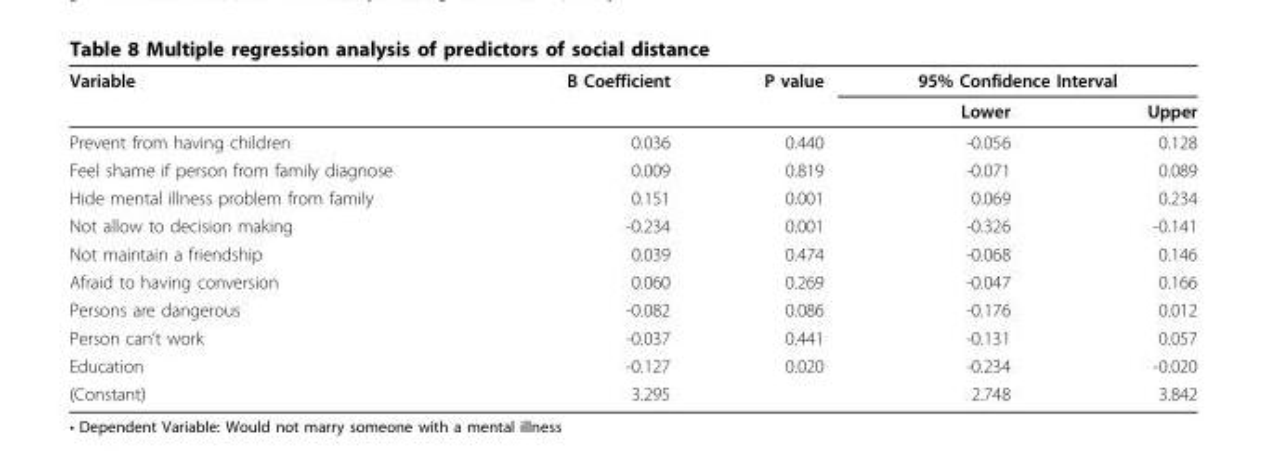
<table><thead><tr><td rowspan="2">Variable</td><td rowspan="2">B Coefficient</td><td rowspan="2">P value</td><td colspan="2">95% Confidence Interval</td></tr><tr><td>Lower</td><td>Upper</td></tr></thead><tbody><tr><td>Prevent from having children</td><td>0.036</td><td>0.440</td><td>-0.056</td><td>0.128</td></tr><tr><td>Feel shame if person from family diagnose</td><td>0.009</td><td>0.819</td><td>-0.071</td><td>0.089</td></tr><tr><td>Hide mental illness problem from family</td><td>0.151</td><td>0.001</td><td>0.069</td><td>0.234</td></tr><tr><td>Not allow to decision making</td><td>-0.234</td><td>0.001</td><td>-0.326</td><td>-0.141</td></tr><tr><td>Not maintain a friendship</td><td>0.039</td><td>0.474</td><td>-0.068</td><td>0.146</td></tr><tr><td>Afraid to having conversion</td><td>0.060</td><td>0.269</td><td>-0.047</td><td>0.166</td></tr><tr><td>Persons are dangerous</td><td>-0.082</td><td>0.086</td><td>-0.176</td><td>0.012</td></tr><tr><td>Person can’t work</td><td>-0.037</td><td>0.441</td><td>-0.131</td><td>0.057</td></tr><tr><td>Education</td><td>-0.127</td><td>0.020</td><td>-0.234</td><td>-0.020</td></tr><tr><td>(Constant)</td><td>3.295</td><td></td><td>2.748</td><td>3.842</td></tr></tbody></table>